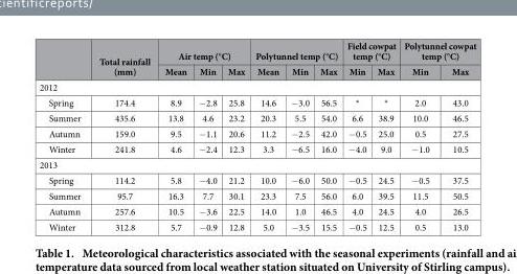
<table><thead><tr><td rowspan="2"></td><td rowspan="2">Total rainfall (mm)</td><td colspan="3">Air temp (°C)</td><td colspan="3">Polytunnel temp (°C)</td><td colspan="2">Field cowpat temp (°C)</td><td colspan="2">Polytunnel cowpat temp (°C)</td></tr><tr><td>Mean</td><td>Min</td><td>Max</td><td>Mean</td><td>Min</td><td>Max</td><td>Min</td><td>Max</td><td>Min</td><td>Max</td></tr></thead><tbody><tr><td colspan="12">2012</td></tr><tr><td>Spring</td><td>174.4</td><td>8.9</td><td>− 2.8</td><td>25.8</td><td>14.6</td><td>− 3.0</td><td>56.5</td><td>*</td><td>*</td><td>2.0</td><td>43.0</td></tr><tr><td>Summer</td><td>435.6</td><td>13.8</td><td>4.6</td><td>23.2</td><td>20.3</td><td>5.5</td><td>54.0</td><td>6.6</td><td>38.9</td><td>10.0</td><td>46.5</td></tr><tr><td>Autumn</td><td>159.0</td><td>9.5</td><td>− 1.1</td><td>20.6</td><td>11.2</td><td>− 2.5</td><td>42.0</td><td>− 0.5</td><td>25.0</td><td>0.5</td><td>27.5</td></tr><tr><td>Winter</td><td>241.8</td><td>4.6</td><td>− 2.4</td><td>12.3</td><td>3.3</td><td>− 6.5</td><td>16.0</td><td>− 4.0</td><td>9.0</td><td>− 1.0</td><td>10.5</td></tr><tr><td colspan="12">2013</td></tr><tr><td>Spring</td><td>114.2</td><td>5.8</td><td>− 4.0</td><td>21.2</td><td>10.0</td><td>− 6.0</td><td>50.0</td><td>− 0.5</td><td>24.5</td><td>− 0.5</td><td>37.5</td></tr><tr><td>Summer</td><td>95.7</td><td>16.3</td><td>7.7</td><td>30.1</td><td>23.3</td><td>7.5</td><td>56.0</td><td>6.0</td><td>39.5</td><td>11.5</td><td>50.5</td></tr><tr><td>Autumn</td><td>257.6</td><td>10.5</td><td>− 3.6</td><td>22.5</td><td>14.0</td><td>1.0</td><td>46.5</td><td>4.0</td><td>24.5</td><td>4.0</td><td>26.5</td></tr><tr><td>Winter</td><td>312.8</td><td>5.7</td><td>− 0.9</td><td>12.8</td><td>5.0</td><td>− 3.5</td><td>15.5</td><td>− 0.5</td><td>12.5</td><td>0.5</td><td>13.0</td></tr></tbody></table>